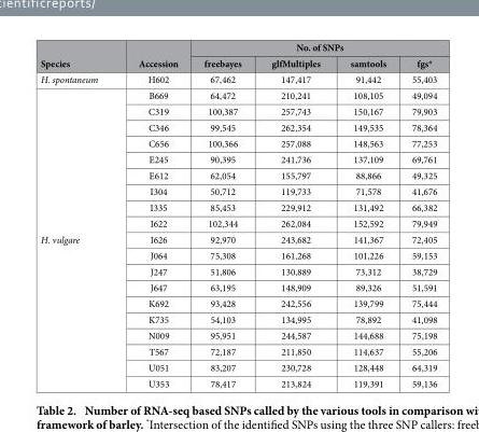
<table><thead><tr><td rowspan="2">Species</td><td rowspan="2">Accession</td><td colspan="4">No. of SNPs</td></tr><tr><td>freebayes</td><td>glfMultiples</td><td>samtools</td><td>fgs*</td></tr></thead><tbody><tr><td>H. spontaneum</td><td>H602</td><td>67,462</td><td>147,417</td><td>91,442</td><td>55,403</td></tr><tr><td rowspan="19">H. vulgare</td><td>B669</td><td>64,472</td><td>210,241</td><td>108,105</td><td>49,094</td></tr><tr><td>C319</td><td>100,387</td><td>257,743</td><td>150,167</td><td>79,903</td></tr><tr><td>C346</td><td>99,545</td><td>262,354</td><td>149,535</td><td>78,364</td></tr><tr><td>C656</td><td>100,366</td><td>257,088</td><td>148,563</td><td>77,253</td></tr><tr><td>E245</td><td>90,395</td><td>241,736</td><td>137,109</td><td>69,761</td></tr><tr><td>E612</td><td>62,054</td><td>155,797</td><td>88,866</td><td>49,325</td></tr><tr><td>I304</td><td>50,712</td><td>119,733</td><td>71,578</td><td>41,676</td></tr><tr><td>I335</td><td>85,453</td><td>229,912</td><td>131,492</td><td>66,382</td></tr><tr><td>I622</td><td>102,344</td><td>262,084</td><td>152,592</td><td>79,949</td></tr><tr><td>I626</td><td>92,970</td><td>243,682</td><td>141,367</td><td>72,405</td></tr><tr><td>J064</td><td>75,308</td><td>161,268</td><td>101,226</td><td>59,153</td></tr><tr><td>J247</td><td>51,806</td><td>130,889</td><td>73,312</td><td>38,729</td></tr><tr><td>J647</td><td>63,195</td><td>148,909</td><td>89,326</td><td>51,591</td></tr><tr><td>K692</td><td>93,428</td><td>242,556</td><td>139,799</td><td>75,444</td></tr><tr><td>K735</td><td>54,103</td><td>134,995</td><td>78,892</td><td>41,098</td></tr><tr><td>N009</td><td>95,951</td><td>244,587</td><td>144,688</td><td>75,198</td></tr><tr><td>T567</td><td>72,187</td><td>211,850</td><td>114,637</td><td>55,206</td></tr><tr><td>U051</td><td>83,207</td><td>230,728</td><td>128,448</td><td>64,319</td></tr><tr><td>U353</td><td>78,417</td><td>213,824</td><td>119,391</td><td>59,136</td></tr></tbody></table>